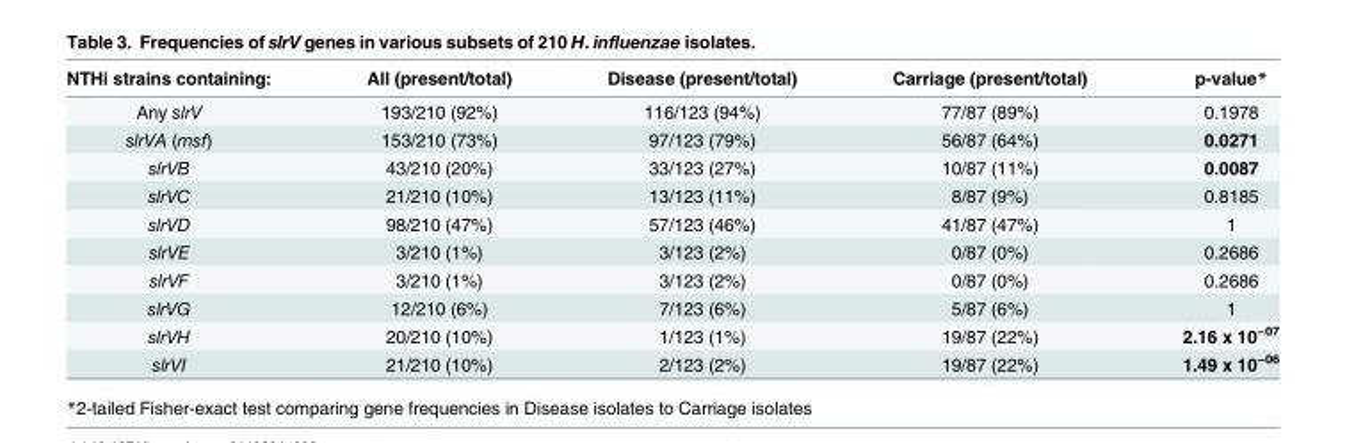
<table><thead><tr><td>NTHi strains containing:</td><td>All (present/total)</td><td>Disease (present/total)</td><td>Carriage (present/total)</td><td>p-value*</td></tr></thead><tbody><tr><td>Any slrV</td><td>193/210 (92%)</td><td>116/123 (94%)</td><td>77/87 (89%)</td><td>0.1978</td></tr><tr><td>slrVA (msf)</td><td>153/210 (73%)</td><td>97/123 (79%)</td><td>56/87 (64%)</td><td>0.0271</td></tr><tr><td>slrVB</td><td>43/210 (20%)</td><td>33/123 (27%)</td><td>10/87 (11%)</td><td>0.0087</td></tr><tr><td>slrVC</td><td>21/210 (10%)</td><td>13/123 (11%)</td><td>8/87 (9%)</td><td>0.8185</td></tr><tr><td>slrVD</td><td>98/210 (47%)</td><td>57/123 (46%)</td><td>41/87 (47%)</td><td>1</td></tr><tr><td>slrVE</td><td>3/210 (1%)</td><td>3/123 (2%)</td><td>0/87 (0%)</td><td>0.2686</td></tr><tr><td>slrVF</td><td>3/210 (1%)</td><td>3/123 (2%)</td><td>0/87 (0%)</td><td>0.2686</td></tr><tr><td>slrVG</td><td>12/210 (6%)</td><td>7/123 (6%)</td><td>5/87 (6%)</td><td>1</td></tr><tr><td>slrVH</td><td>20/210 (10%)</td><td>1/123 (1%)</td><td>19/87 (22%)</td><td>2.16 x 10<sup>−07</sup></td></tr><tr><td>slrVI</td><td>21/210 (10%)</td><td>2/123 (2%)</td><td>19/87 (22%)</td><td>1.49 x 10<sup>−06</sup></td></tr></tbody></table>